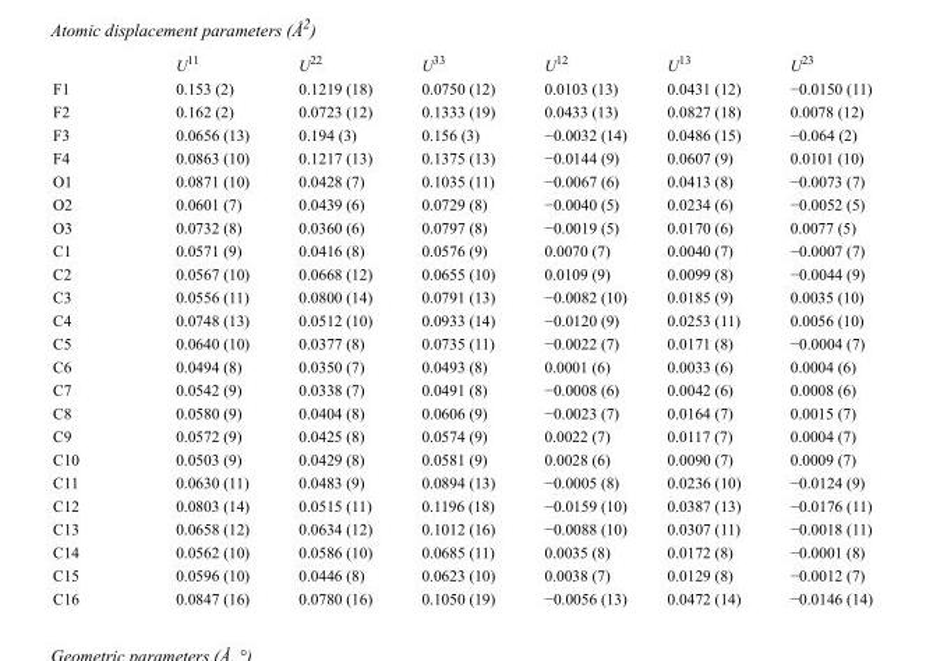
<table><thead><tr><td></td><td>U<sup>11</sup></td><td>U<sup>22</sup></td><td>U<sup>33</sup></td><td>U<sup>12</sup></td><td>U<sup>13</sup></td><td>U<sup>23</sup></td></tr></thead><tbody><tr><td>F1</td><td>0.153 (2)</td><td>0.1219 (18)</td><td>0.0750 (12)</td><td>0.0103 (13)</td><td>0.0431 (12)</td><td>−0.0150 (11)</td></tr><tr><td>F2</td><td>0.162 (2)</td><td>0.0723 (12)</td><td>0.1333 (19)</td><td>0.0433 (13)</td><td>0.0827 (18)</td><td>0.0078 (12)</td></tr><tr><td>F3</td><td>0.0656 (13)</td><td>0.194 (3)</td><td>0.156 (3)</td><td>−0.0032 (14)</td><td>0.0486 (15)</td><td>−0.064 (2)</td></tr><tr><td>F4</td><td>0.0863 (10)</td><td>0.1217 (13)</td><td>0.1375 (13)</td><td>−0.0144 (9)</td><td>0.0607 (9)</td><td>0.0101 (10)</td></tr><tr><td>O1</td><td>0.0871 (10)</td><td>0.0428 (7)</td><td>0.1035 (11)</td><td>−0.0067 (6)</td><td>0.0413 (8)</td><td>−0.0073 (7)</td></tr><tr><td>O2</td><td>0.0601 (7)</td><td>0.0439 (6)</td><td>0.0729 (8)</td><td>−0.0040 (5)</td><td>0.0234 (6)</td><td>−0.0052 (5)</td></tr><tr><td>O3</td><td>0.0732 (8)</td><td>0.0360 (6)</td><td>0.0797 (8)</td><td>−0.0019 (5)</td><td>0.0170 (6)</td><td>0.0077 (5)</td></tr><tr><td>C1</td><td>0.0571 (9)</td><td>0.0416 (8)</td><td>0.0576 (9)</td><td>0.0070 (7)</td><td>0.0040 (7)</td><td>−0.0007 (7)</td></tr><tr><td>C2</td><td>0.0567 (10)</td><td>0.0668 (12)</td><td>0.0655 (10)</td><td>0.0109 (9)</td><td>0.0099 (8)</td><td>−0.0044 (9)</td></tr><tr><td>C3</td><td>0.0556 (11)</td><td>0.0800 (14)</td><td>0.0791 (13)</td><td>−0.0082 (10)</td><td>0.0185 (9)</td><td>0.0035 (10)</td></tr><tr><td>C4</td><td>0.0748 (13)</td><td>0.0512 (10)</td><td>0.0933 (14)</td><td>−0.0120 (9)</td><td>0.0253 (11)</td><td>0.0056 (10)</td></tr><tr><td>C5</td><td>0.0640 (10)</td><td>0.0377 (8)</td><td>0.0735 (11)</td><td>−0.0022 (7)</td><td>0.0171 (8)</td><td>−0.0004 (7)</td></tr><tr><td>C6</td><td>0.0494 (8)</td><td>0.0350 (7)</td><td>0.0493 (8)</td><td>0.0001 (6)</td><td>0.0033 (6)</td><td>0.0004 (6)</td></tr><tr><td>C7</td><td>0.0542 (9)</td><td>0.0338 (7)</td><td>0.0491 (8)</td><td>−0.0008 (6)</td><td>0.0042 (6)</td><td>0.0008 (6)</td></tr><tr><td>C8</td><td>0.0580 (9)</td><td>0.0404 (8)</td><td>0.0606 (9)</td><td>−0.0023 (7)</td><td>0.0164 (7)</td><td>0.0015 (7)</td></tr><tr><td>C9</td><td>0.0572 (9)</td><td>0.0425 (8)</td><td>0.0574 (9)</td><td>0.0022 (7)</td><td>0.0117 (7)</td><td>0.0004 (7)</td></tr><tr><td>C10</td><td>0.0503 (9)</td><td>0.0429 (8)</td><td>0.0581 (9)</td><td>0.0028 (6)</td><td>0.0090 (7)</td><td>0.0009 (7)</td></tr><tr><td>C11</td><td>0.0630 (11)</td><td>0.0483 (9)</td><td>0.0894 (13)</td><td>−0.0005 (8)</td><td>0.0236 (10)</td><td>−0.0124 (9)</td></tr><tr><td>C12</td><td>0.0803 (14)</td><td>0.0515 (11)</td><td>0.1196 (18)</td><td>−0.0159 (10)</td><td>0.0387 (13)</td><td>−0.0176 (11)</td></tr><tr><td>C13</td><td>0.0658 (12)</td><td>0.0634 (12)</td><td>0.1012 (16)</td><td>−0.0088 (10)</td><td>0.0307 (11)</td><td>−0.0018 (11)</td></tr><tr><td>C14</td><td>0.0562 (10)</td><td>0.0586 (10)</td><td>0.0685 (11)</td><td>0.0035 (8)</td><td>0.0172 (8)</td><td>−0.0001 (8)</td></tr><tr><td>C15</td><td>0.0596 (10)</td><td>0.0446 (8)</td><td>0.0623 (10)</td><td>0.0038 (7)</td><td>0.0129 (8)</td><td>−0.0012 (7)</td></tr><tr><td>C16</td><td>0.0847 (16)</td><td>0.0780 (16)</td><td>0.1050 (19)</td><td>−0.0056 (13)</td><td>0.0472 (14)</td><td>−0.0146 (14)</td></tr></tbody></table>